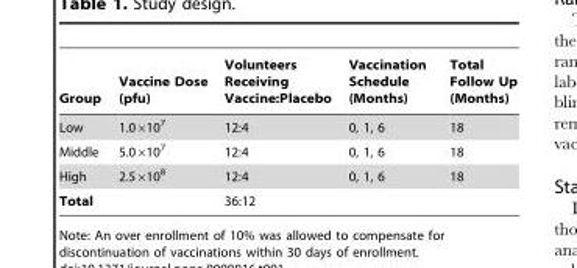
<table><thead><tr><td>Group</td><td>Vaccine Dose (pfu)</td><td>Volunteers Receiving Vaccine:Placebo</td><td>Vaccination Schedule (Months)</td><td>Total Follow Up (Months)</td></tr></thead><tbody><tr><td>Low</td><td>1.0×10<sup>7</sup></td><td>12:4</td><td>0, 1, 6</td><td>18</td></tr><tr><td>Middle</td><td>5.0×10<sup>7</sup></td><td>12:4</td><td>0, 1, 6</td><td>18</td></tr><tr><td>High</td><td>2.5×10<sup>8</sup></td><td>12:4</td><td>0, 1, 6</td><td>18</td></tr><tr><td>Total</td><td></td><td>36:12</td><td></td><td></td></tr></tbody></table>